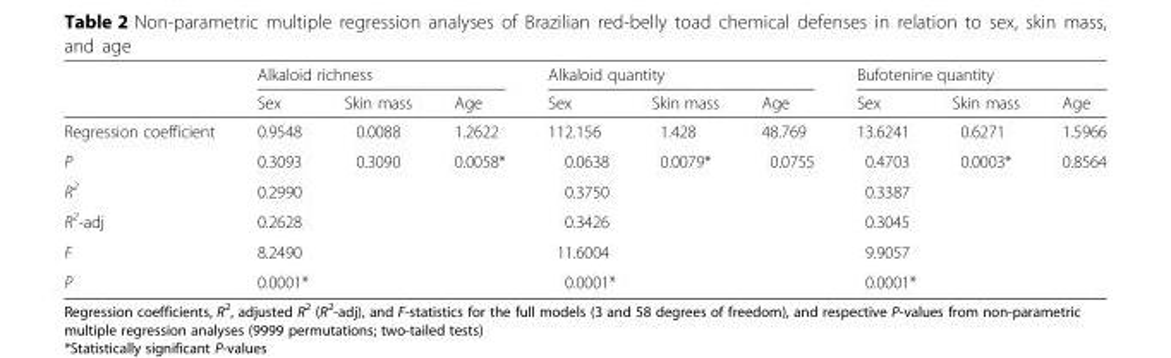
<table><thead><tr><td rowspan="2"></td><td colspan="3">Alkaloid richness</td><td colspan="3">Alkaloid quantity</td><td colspan="3">Bufotenine quantity</td></tr><tr><td>Sex</td><td>Skin mass</td><td>Age</td><td>Sex</td><td>Skin mass</td><td>Age</td><td>Sex</td><td>Skin mass</td><td>Age</td></tr></thead><tbody><tr><td>Regression coefficient</td><td>0.9548</td><td>0.0088</td><td>1.2622</td><td>112.156</td><td>1.428</td><td>48.769</td><td>13.6241</td><td>0.6271</td><td>1.5966</td></tr><tr><td>P</td><td>0.3093</td><td>0.3090</td><td>0.0058*</td><td>0.0638</td><td>0.0079*</td><td>0.0755</td><td>0.4703</td><td>0.0003*</td><td>0.8564</td></tr><tr><td>R<sup>2</sup></td><td colspan="3">0.2990</td><td colspan="3">0.3750</td><td colspan="3">0.3387</td></tr><tr><td>R<sup>2</sup>-adj</td><td colspan="3">0.2628</td><td colspan="3">0.3426</td><td colspan="3">0.3045</td></tr><tr><td>F</td><td colspan="3">8.2490</td><td colspan="3">11.6004</td><td colspan="3">9.9057</td></tr><tr><td>P</td><td colspan="3">0.0001*</td><td colspan="3">0.0001*</td><td colspan="3">0.0001*</td></tr></tbody></table>